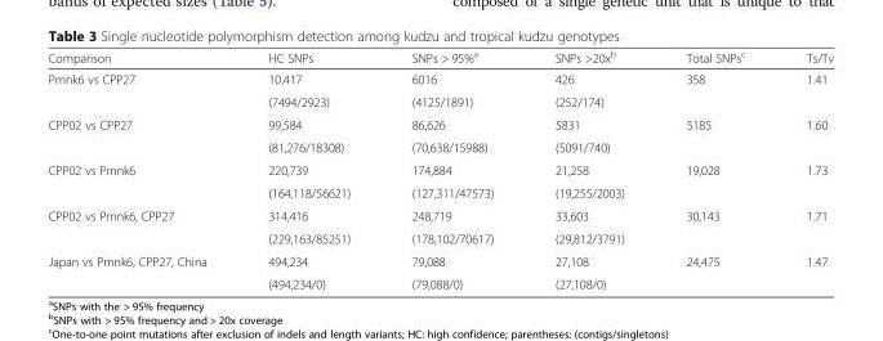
<table><thead><tr><td>Comparison</td><td>HC SNPs</td><td>SNPs &gt; 95%<sup>a</sup></td><td>SNPs &gt;20x<sup>b</sup></td><td>Total SNPs<sup>c</sup></td><td>Ts/Tv</td></tr></thead><tbody><tr><td rowspan="2">Pmnk6 vs CPP27</td><td>10,417</td><td>6016</td><td>426</td><td rowspan="2">358</td><td rowspan="2">1.41</td></tr><tr><td>(7494/2923)</td><td>(4125/1891)</td><td>(252/174)</td></tr><tr><td rowspan="2">CPP02 vs CPP27</td><td>99,584</td><td>86,626</td><td>5831</td><td rowspan="2">5185</td><td rowspan="2">1.60</td></tr><tr><td>(81,276/18308)</td><td>(70,638/15988)</td><td>(5091/740)</td></tr><tr><td rowspan="2">CPP02 vs Pmnk6</td><td>220,739</td><td>174,884</td><td>21,258</td><td rowspan="2">19,028</td><td rowspan="2">1.73</td></tr><tr><td>(164,118/56621)</td><td>(127,311/47573)</td><td>(19,255/2003)</td></tr><tr><td rowspan="2">CPP02 vs Pmnk6, CPP27</td><td>314,416</td><td>248,719</td><td>33,603</td><td rowspan="2">30,143</td><td rowspan="2">1.71</td></tr><tr><td>(229,163/85251)</td><td>(178,102/70617)</td><td>(29,812/3791)</td></tr><tr><td rowspan="2">Japan vs Pmnk6, CPP27, China</td><td>494,234</td><td>79,088</td><td>27,108</td><td rowspan="2">24,475</td><td rowspan="2">1.47</td></tr><tr><td>(494,234/0)</td><td>(79,088/0)</td><td>(27,108/0)</td></tr></tbody></table>